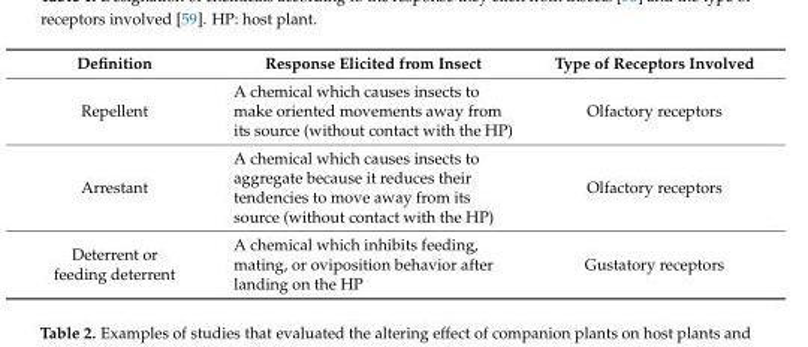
<table><thead><tr><td>Definition</td><td>Response Elicited from Insect</td><td>Type of Receptors Involved</td></tr></thead><tbody><tr><td>Repellent</td><td>A chemical which causes insects to make oriented movements away from its source (without contact with the HP)</td><td>Olfactory receptors</td></tr><tr><td>Arrestant</td><td>A chemical which causes insects to aggregate because it reduces their tendencies to move away from its source (without contact with the HP)</td><td>Olfactory receptors</td></tr><tr><td>Deterrent or feeding deterrent</td><td>A chemical which inhibits feeding, mating, or oviposition behavior after landing on the HP</td><td>Gustatory receptors</td></tr></tbody></table>